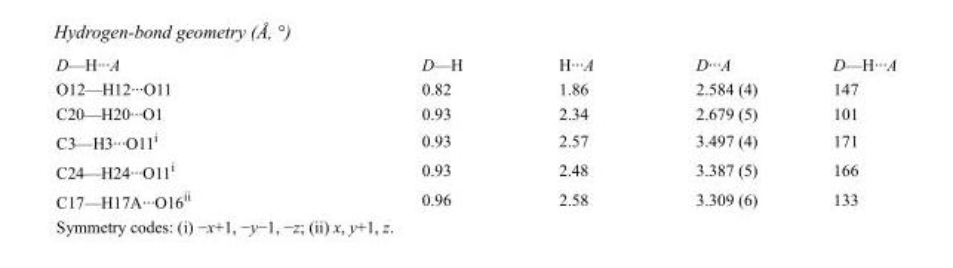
<table><tbody><tr><td>D—H···A</td><td>D—H</td><td>H···A</td><td>D···A</td><td>D—H···A</td></tr><tr><td>O12—H12···O11</td><td>0.82</td><td>1.86</td><td>2.584 (4)</td><td>147</td></tr><tr><td>C20—H20···O1</td><td>0.93</td><td>2.34</td><td>2.679 (5)</td><td>101</td></tr><tr><td>C3—H3···O11<sup>i</sup></td><td>0.93</td><td>2.57</td><td>3.497 (4)</td><td>171</td></tr><tr><td>C24—H24···O11<sup>i</sup></td><td>0.93</td><td>2.48</td><td>3.387 (5)</td><td>166</td></tr><tr><td>C17—H17A···O16<sup>ii</sup></td><td>0.96</td><td>2.58</td><td>3.309 (6)</td><td>133</td></tr></tbody></table>